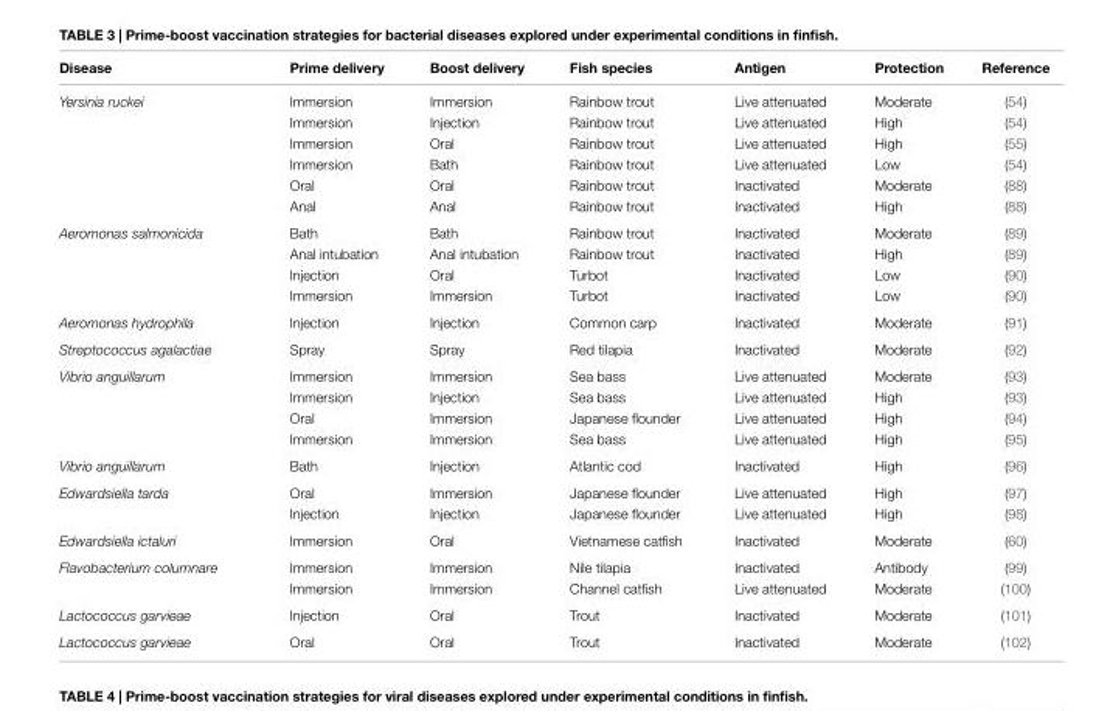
<table><thead><tr><td>Disease</td><td>Prime delivery</td><td>Boost delivery</td><td>Fish species</td><td>Antigen</td><td>Protection</td><td>Reference</td></tr></thead><tbody><tr><td rowspan="6">Yersinia ruckei</td><td>Immersion</td><td>Immersion</td><td>Rainbow trout</td><td>Live attenuated</td><td>Moderate</td><td>(54)</td></tr><tr><td>Immersion</td><td>Injection</td><td>Rainbow trout</td><td>Live attenuated</td><td>High</td><td>(54)</td></tr><tr><td>Immersion</td><td>Oral</td><td>Rainbow trout</td><td>Live attenuated</td><td>High</td><td>(55)</td></tr><tr><td>Immersion</td><td>Bath</td><td>Rainbow trout</td><td>Live attenuated</td><td>Low</td><td>(54)</td></tr><tr><td>Oral</td><td>Oral</td><td>Rainbow trout</td><td>Inactivated</td><td>Moderate</td><td>(88)</td></tr><tr><td>Anal</td><td>Anal</td><td>Rainbow trout</td><td>Inactivated</td><td>High</td><td>(88)</td></tr><tr><td rowspan="4">Aeromonas salmonicida</td><td>Bath</td><td>Bath</td><td>Rainbow trout</td><td>Inactivated</td><td>Moderate</td><td>(89)</td></tr><tr><td>Anal intubation</td><td>Anal intubation</td><td>Rainbow trout</td><td>Inactivated</td><td>High</td><td>(89)</td></tr><tr><td>Injection</td><td>Oral</td><td>Turbot</td><td>Inactivated</td><td>Low</td><td>(90)</td></tr><tr><td>Immersion</td><td>Immersion</td><td>Turbot</td><td>Inactivated</td><td>Low</td><td>(90)</td></tr><tr><td>Aeromonas hydrophila</td><td>Injection</td><td>Injection</td><td>Common carp</td><td>Inactivated</td><td>Moderate</td><td>(91)</td></tr><tr><td>Streptococcus agalactiae</td><td>Spray</td><td>Spray</td><td>Red tilapia</td><td>Inactivated</td><td>Moderate</td><td>(92)</td></tr><tr><td rowspan="4">Vibrio anguillarum</td><td>Immersion</td><td>Immersion</td><td>Sea bass</td><td>Live attenuated</td><td>Moderate</td><td>(93)</td></tr><tr><td>Immersion</td><td>Injection</td><td>Sea bass</td><td>Live attenuated</td><td>High</td><td>(93)</td></tr><tr><td>Oral</td><td>Immersion</td><td>Japanese flounder</td><td>Live attenuated</td><td>High</td><td>(94)</td></tr><tr><td>Immersion</td><td>Immersion</td><td>Sea bass</td><td>Live attenuated</td><td>High</td><td>(95)</td></tr><tr><td>Vibrio anguillarum</td><td>Bath</td><td>Injection</td><td>Atlantic cod</td><td>Inactivated</td><td>High</td><td>(96)</td></tr><tr><td rowspan="2">Edwardsiella tarda</td><td>Oral</td><td>Immersion</td><td>Japanese flounder</td><td>Live attenuated</td><td>High</td><td>(97)</td></tr><tr><td>Injection</td><td>Injection</td><td>Japanese flounder</td><td>Live attenuated</td><td>High</td><td>(98)</td></tr><tr><td>Edwardsiella ictaluri</td><td>Immersion</td><td>Oral</td><td>Vietnamese catfish</td><td>Inactivated</td><td>Moderate</td><td>(60)</td></tr><tr><td rowspan="2">Flavobacterium columnare</td><td>Immersion</td><td>Immersion</td><td>Nile tilapia</td><td>Inactivated</td><td>Antibody</td><td>(99)</td></tr><tr><td>Immersion</td><td>Immersion</td><td>Channel catfish</td><td>Live attenuated</td><td>Moderate</td><td>(100)</td></tr><tr><td>Lactococcus garvieae</td><td>Injection</td><td>Oral</td><td>Trout</td><td>Inactivated</td><td>Moderate</td><td>(101)</td></tr><tr><td>Lactococcus garvieae</td><td>Oral</td><td>Oral</td><td>Trout</td><td>Inactivated</td><td>Moderate</td><td>(102)</td></tr></tbody></table>